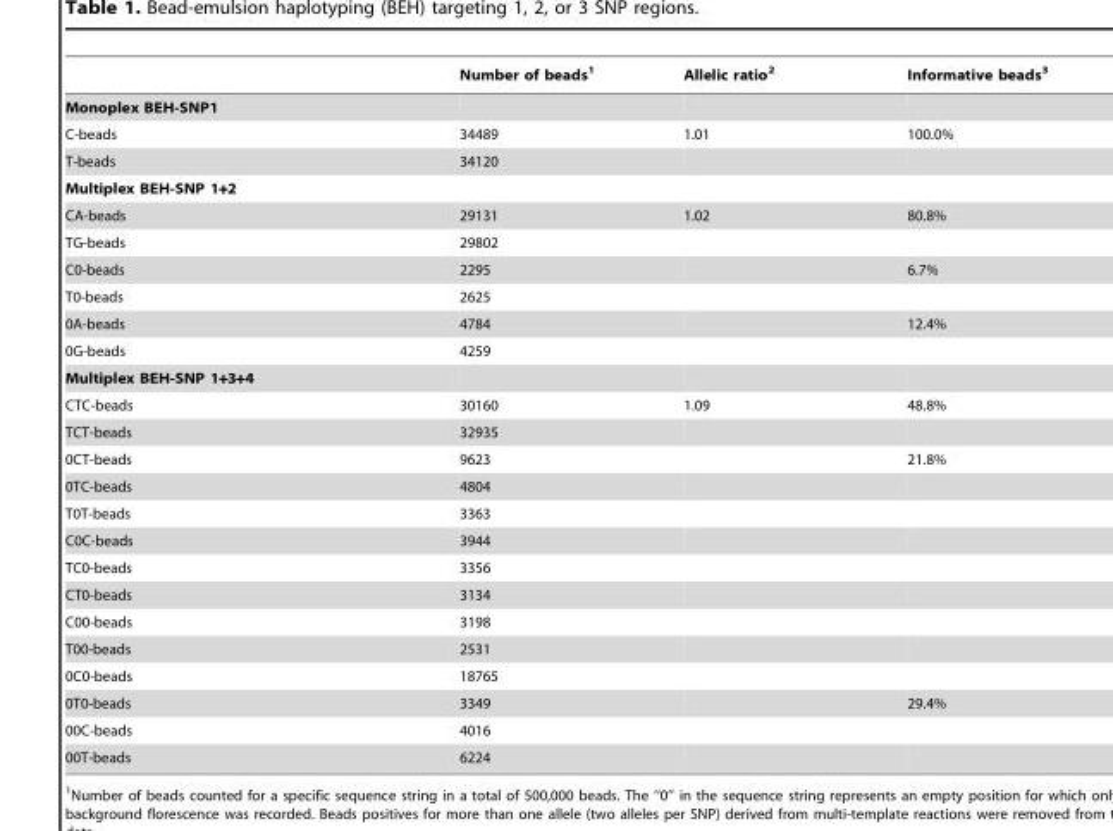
<table><thead><tr><td></td><td>Number of beads<sup>1</sup></td><td>Allelic ratio<sup>2</sup></td><td>Informative beads<sup>3</sup></td></tr></thead><tbody><tr><td colspan="4">Monoplex BEH-SNP1</td></tr><tr><td>C-beads</td><td>34489</td><td>1.01</td><td>100.0%</td></tr><tr><td>T-beads</td><td>34120</td><td></td><td></td></tr><tr><td colspan="4">Multiplex BEH-SNP 1+2</td></tr><tr><td>CA-beads</td><td>29131</td><td>1.02</td><td>80.8%</td></tr><tr><td>TG-beads</td><td>29802</td><td></td><td></td></tr><tr><td>C0-beads</td><td>2295</td><td></td><td>6.7%</td></tr><tr><td>T0-beads</td><td>2625</td><td></td><td></td></tr><tr><td>0A-beads</td><td>4784</td><td></td><td>12.4%</td></tr><tr><td>0G-beads</td><td>4259</td><td></td><td></td></tr><tr><td colspan="4">Multiplex BEH-SNP 1+3+4</td></tr><tr><td>CTC-beads</td><td>30160</td><td>1.09</td><td>48.8%</td></tr><tr><td>TCT-beads</td><td>32935</td><td></td><td></td></tr><tr><td>0CT-beads</td><td>9623</td><td></td><td>21.8%</td></tr><tr><td>0TC-beads</td><td>4804</td><td></td><td></td></tr><tr><td>T0T-beads</td><td>3363</td><td></td><td></td></tr><tr><td>C0C-beads</td><td>3944</td><td></td><td></td></tr><tr><td>TC0-beads</td><td>3356</td><td></td><td></td></tr><tr><td>CT0-beads</td><td>3134</td><td></td><td></td></tr><tr><td>C00-beads</td><td>3198</td><td></td><td></td></tr><tr><td>T00-beads</td><td>2531</td><td></td><td></td></tr><tr><td>0C0-beads</td><td>18765</td><td></td><td></td></tr><tr><td>0T0-beads</td><td>3349</td><td></td><td>29.4%</td></tr><tr><td>00C-beads</td><td>4016</td><td></td><td></td></tr><tr><td>00T-beads</td><td>6224</td><td></td><td></td></tr></tbody></table>